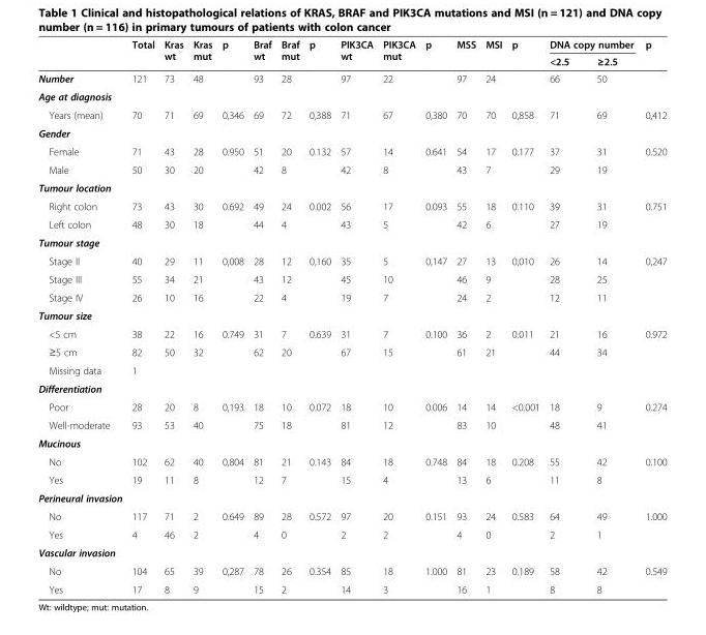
<table><thead><tr><td rowspan="2"></td><td rowspan="2">Total</td><td rowspan="2">Kras wt</td><td rowspan="2">Kras mut</td><td rowspan="2">p</td><td rowspan="2">Braf wt</td><td rowspan="2">Braf mut</td><td rowspan="2">p</td><td rowspan="2">PIK3CA wt</td><td rowspan="2">PIK3CA mut</td><td rowspan="2">p</td><td rowspan="2">MSS</td><td rowspan="2">MSI</td><td rowspan="2">p</td><td colspan="2">DNA copy number</td><td rowspan="2">p</td></tr><tr><td>&lt;2.5</td><td>≥2.5</td></tr></thead><tbody><tr><td>Number</td><td>121</td><td>73</td><td>48</td><td></td><td>93</td><td>28</td><td></td><td>97</td><td>22</td><td></td><td>97</td><td>24</td><td></td><td>66</td><td>50</td><td></td></tr><tr><td colspan="17">Age at diagnosis</td></tr><tr><td>Years (mean)</td><td>70</td><td>71</td><td>69</td><td>0,346</td><td>69</td><td>72</td><td>0,388</td><td>71</td><td>67</td><td>0,380</td><td>70</td><td>70</td><td>0,858</td><td>71</td><td>69</td><td>0,412</td></tr><tr><td colspan="17">Gender</td></tr><tr><td>Female</td><td>71</td><td>43</td><td>28</td><td>0.950</td><td>51</td><td>20</td><td>0.132</td><td>57</td><td>14</td><td>0.641</td><td>54</td><td>17</td><td>0.177</td><td>37</td><td>31</td><td>0.520</td></tr><tr><td>Male</td><td>50</td><td>30</td><td>20</td><td></td><td>42</td><td>8</td><td></td><td>42</td><td>8</td><td></td><td>43</td><td>7</td><td></td><td>29</td><td>19</td><td></td></tr><tr><td colspan="17">Tumour location</td></tr><tr><td>Right colon</td><td>73</td><td>43</td><td>30</td><td>0.692</td><td>49</td><td>24</td><td>0.002</td><td>56</td><td>17</td><td>0.093</td><td>55</td><td>18</td><td>0.110</td><td>39</td><td>31</td><td>0.751</td></tr><tr><td>Left colon</td><td>48</td><td>30</td><td>18</td><td></td><td>44</td><td>4</td><td></td><td>43</td><td>5</td><td></td><td>42</td><td>6</td><td></td><td>27</td><td>19</td><td></td></tr><tr><td colspan="17">Tumour stage</td></tr><tr><td>Stage II</td><td>40</td><td>29</td><td>11</td><td>0,008</td><td>28</td><td>12</td><td>0,160</td><td>35</td><td>5</td><td>0,147</td><td>27</td><td>13</td><td>0,010</td><td>26</td><td>14</td><td>0,247</td></tr><tr><td>Stage III</td><td>55</td><td>34</td><td>21</td><td></td><td>43</td><td>12</td><td></td><td>45</td><td>10</td><td></td><td>46</td><td>9</td><td></td><td>28</td><td>25</td><td></td></tr><tr><td>Stage IV</td><td>26</td><td>10</td><td>16</td><td></td><td>22</td><td>4</td><td></td><td>19</td><td>7</td><td></td><td>24</td><td>2</td><td></td><td>12</td><td>11</td><td></td></tr><tr><td colspan="17">Tumour size</td></tr><tr><td>&lt;5 cm</td><td>38</td><td>22</td><td>16</td><td>0.749</td><td>31</td><td>7</td><td>0.639</td><td>31</td><td>7</td><td>0.100</td><td>36</td><td>2</td><td>0.011</td><td>21</td><td>16</td><td>0.972</td></tr><tr><td>≥5 cm</td><td>82</td><td>50</td><td>32</td><td></td><td>62</td><td>20</td><td></td><td>67</td><td>15</td><td></td><td>61</td><td>21</td><td></td><td>44</td><td>34</td><td></td></tr><tr><td>Missing data</td><td>1</td><td></td><td></td><td></td><td></td><td></td><td></td><td></td><td></td><td></td><td></td><td></td><td></td><td></td><td></td><td></td></tr><tr><td colspan="17">Differentiation</td></tr><tr><td>Poor</td><td>28</td><td>20</td><td>8</td><td>0,193</td><td>18</td><td>10</td><td>0.072</td><td>18</td><td>10</td><td>0.006</td><td>14</td><td>14</td><td>&lt;0.001</td><td>18</td><td>9</td><td>0.274</td></tr><tr><td>Well-moderate</td><td>93</td><td>53</td><td>40</td><td></td><td>75</td><td>18</td><td></td><td>81</td><td>12</td><td></td><td>83</td><td>10</td><td></td><td>48</td><td>41</td><td></td></tr><tr><td colspan="17">Mucinous</td></tr><tr><td>No</td><td>102</td><td>62</td><td>40</td><td>0,804</td><td>81</td><td>21</td><td>0.143</td><td>84</td><td>18</td><td>0.748</td><td>84</td><td>18</td><td>0.208</td><td>55</td><td>42</td><td>0.100</td></tr><tr><td>Yes</td><td>19</td><td>11</td><td>8</td><td></td><td>12</td><td>7</td><td></td><td>15</td><td>4</td><td></td><td>13</td><td>6</td><td></td><td>11</td><td>8</td><td></td></tr><tr><td colspan="17">Perineural invasion</td></tr><tr><td>No</td><td>117</td><td>71</td><td>2</td><td>0.649</td><td>89</td><td>28</td><td>0.572</td><td>97</td><td>20</td><td>0.151</td><td>93</td><td>24</td><td>0.583</td><td>64</td><td>49</td><td>1.000</td></tr><tr><td>Yes</td><td>4</td><td>46</td><td>2</td><td></td><td>4</td><td>0</td><td></td><td>2</td><td>2</td><td></td><td>4</td><td>0</td><td></td><td>2</td><td>1</td><td></td></tr><tr><td colspan="17">Vascular invasion</td></tr><tr><td>No</td><td>104</td><td>65</td><td>39</td><td>0,287</td><td>78</td><td>26</td><td>0.354</td><td>85</td><td>18</td><td>1.000</td><td>81</td><td>23</td><td>0.189</td><td>58</td><td>42</td><td>0.549</td></tr><tr><td>Yes</td><td>17</td><td>8</td><td>9</td><td></td><td>15</td><td>2</td><td></td><td>14</td><td>3</td><td></td><td>16</td><td>1</td><td></td><td>8</td><td>8</td><td></td></tr></tbody></table>